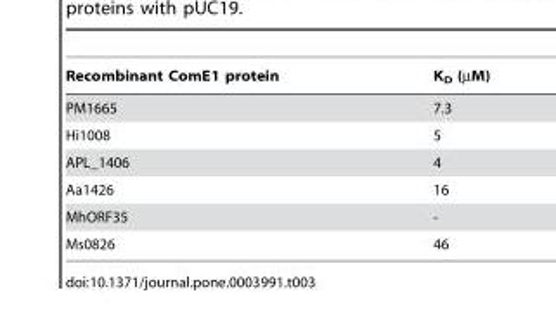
<table><thead><tr><td>Recombinant ComE1 protein</td><td>K<sub>D</sub> (µM)</td></tr></thead><tbody><tr><td>PM1665</td><td>7.3</td></tr><tr><td>Hi1008</td><td>5</td></tr><tr><td>APL_1406</td><td>4</td></tr><tr><td>Aa1426</td><td>16</td></tr><tr><td>MhORF35</td><td>-</td></tr><tr><td>Ms0826</td><td>46</td></tr></tbody></table>